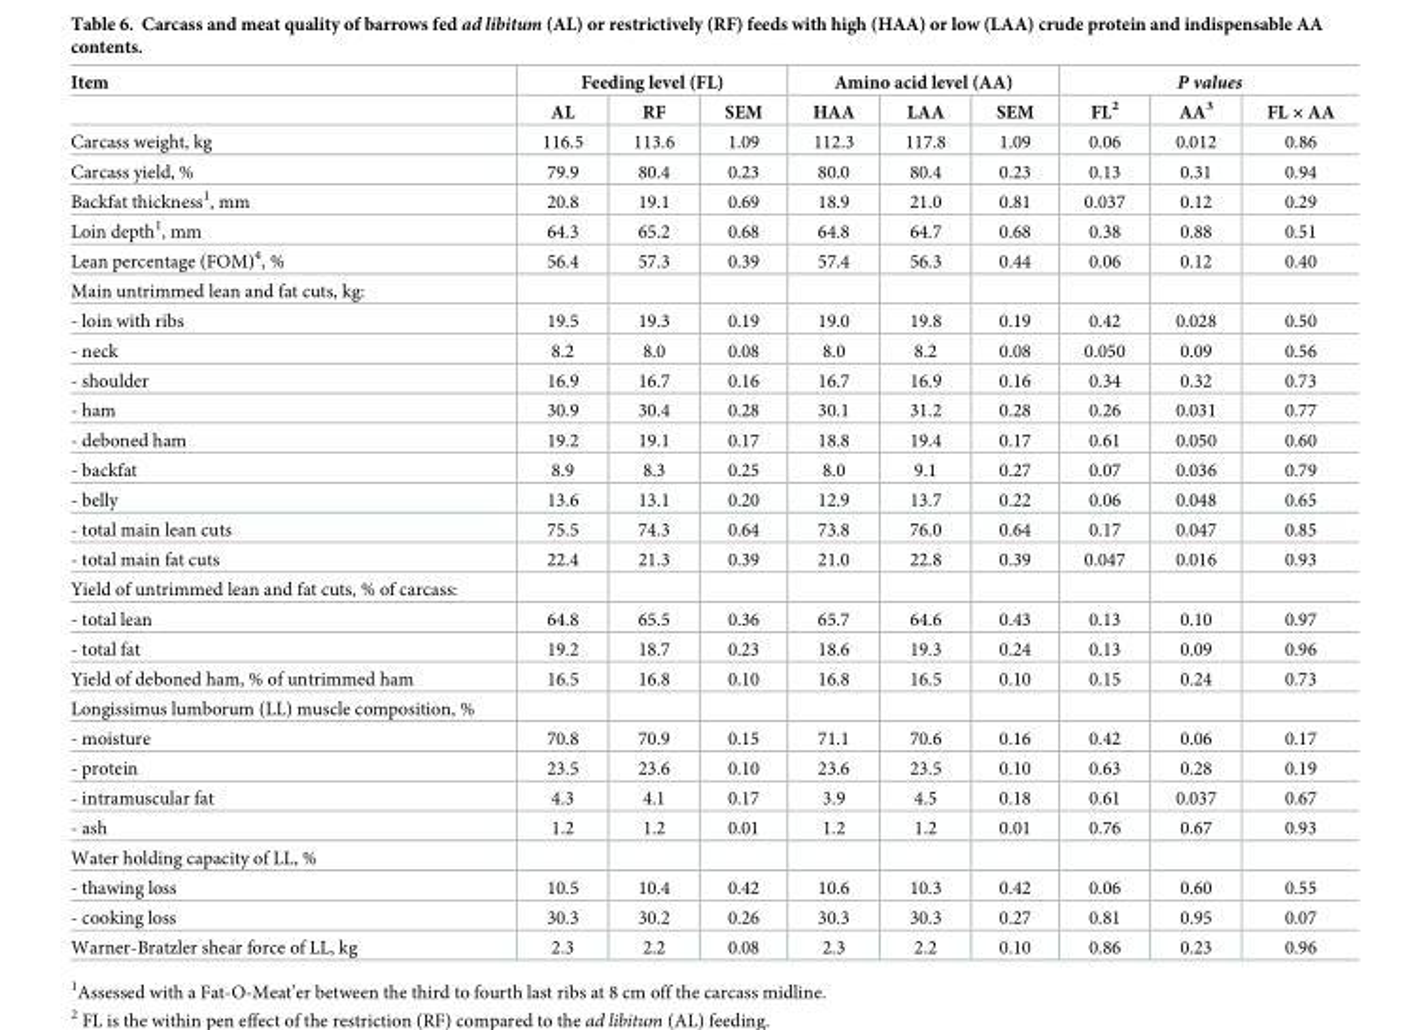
<table><thead><tr><td rowspan="2">Item</td><td colspan="3">Feeding level (FL)</td><td colspan="3">Amino acid level (AA)</td><td colspan="3">P values</td></tr><tr><td>AL</td><td>RF</td><td>SEM</td><td>HAA</td><td>LAA</td><td>SEM</td><td>FL<sup>2</sup></td><td>AA<sup>3</sup></td><td>FL × AA</td></tr></thead><tbody><tr><td>Carcass weight, kg</td><td>116.5</td><td>113.6</td><td>1.09</td><td>112.3</td><td>117.8</td><td>1.09</td><td>0.06</td><td>0.012</td><td>0.86</td></tr><tr><td>Carcass yield, %</td><td>79.9</td><td>80.4</td><td>0.23</td><td>80.0</td><td>80.4</td><td>0.23</td><td>0.13</td><td>0.31</td><td>0.94</td></tr><tr><td>Backfat thickness<sup>1</sup>, mm</td><td>20.8</td><td>19.1</td><td>0.69</td><td>18.9</td><td>21.0</td><td>0.81</td><td>0.037</td><td>0.12</td><td>0.29</td></tr><tr><td>Loin depth<sup>1</sup>, mm</td><td>64.3</td><td>65.2</td><td>0.68</td><td>64.8</td><td>64.7</td><td>0.68</td><td>0.38</td><td>0.88</td><td>0.51</td></tr><tr><td>Lean percentage (FOM)<sup>4</sup>, %</td><td>56.4</td><td>57.3</td><td>0.39</td><td>57.4</td><td>56.3</td><td>0.44</td><td>0.06</td><td>0.12</td><td>0.40</td></tr><tr><td colspan="10">Main untrimmed lean and fat cuts, kg:</td></tr><tr><td>- loin with ribs</td><td>19.5</td><td>19.3</td><td>0.19</td><td>19.0</td><td>19.8</td><td>0.19</td><td>0.42</td><td>0.028</td><td>0.50</td></tr><tr><td>- neck</td><td>8.2</td><td>8.0</td><td>0.08</td><td>8.0</td><td>8.2</td><td>0.08</td><td>0.050</td><td>0.09</td><td>0.56</td></tr><tr><td>- shoulder</td><td>16.9</td><td>16.7</td><td>0.16</td><td>16.7</td><td>16.9</td><td>0.16</td><td>0.34</td><td>0.32</td><td>0.73</td></tr><tr><td>- ham</td><td>30.9</td><td>30.4</td><td>0.28</td><td>30.1</td><td>31.2</td><td>0.28</td><td>0.26</td><td>0.031</td><td>0.77</td></tr><tr><td>- deboned ham</td><td>19.2</td><td>19.1</td><td>0.17</td><td>18.8</td><td>19.4</td><td>0.17</td><td>0.61</td><td>0.050</td><td>0.60</td></tr><tr><td>- backfat</td><td>8.9</td><td>8.3</td><td>0.25</td><td>8.0</td><td>9.1</td><td>0.27</td><td>0.07</td><td>0.036</td><td>0.79</td></tr><tr><td>- belly</td><td>13.6</td><td>13.1</td><td>0.20</td><td>12.9</td><td>13.7</td><td>0.22</td><td>0.06</td><td>0.048</td><td>0.65</td></tr><tr><td>- total main lean cuts</td><td>75.5</td><td>74.3</td><td>0.64</td><td>73.8</td><td>76.0</td><td>0.64</td><td>0.17</td><td>0.047</td><td>0.85</td></tr><tr><td>- total main fat cuts</td><td>22.4</td><td>21.3</td><td>0.39</td><td>21.0</td><td>22.8</td><td>0.39</td><td>0.047</td><td>0.016</td><td>0.93</td></tr><tr><td colspan="10">Yield of untrimmed lean and fat cuts, % of carcass:</td></tr><tr><td>- total lean</td><td>64.8</td><td>65.5</td><td>0.36</td><td>65.7</td><td>64.6</td><td>0.43</td><td>0.13</td><td>0.10</td><td>0.97</td></tr><tr><td>- total fat</td><td>19.2</td><td>18.7</td><td>0.23</td><td>18.6</td><td>19.3</td><td>0.24</td><td>0.13</td><td>0.09</td><td>0.96</td></tr><tr><td>Yield of deboned ham, % of untrimmed ham</td><td>16.5</td><td>16.8</td><td>0.10</td><td>16.8</td><td>16.5</td><td>0.10</td><td>0.15</td><td>0.24</td><td>0.73</td></tr><tr><td colspan="10">Longissimus lumborum (LL) muscle composition, %</td></tr><tr><td>- moisture</td><td>70.8</td><td>70.9</td><td>0.15</td><td>71.1</td><td>70.6</td><td>0.16</td><td>0.42</td><td>0.06</td><td>0.17</td></tr><tr><td>- protein</td><td>23.5</td><td>23.6</td><td>0.10</td><td>23.6</td><td>23.5</td><td>0.10</td><td>0.63</td><td>0.28</td><td>0.19</td></tr><tr><td>- intramuscular fat</td><td>4.3</td><td>4.1</td><td>0.17</td><td>3.9</td><td>4.5</td><td>0.18</td><td>0.61</td><td>0.037</td><td>0.67</td></tr><tr><td>- ash</td><td>1.2</td><td>1.2</td><td>0.01</td><td>1.2</td><td>1.2</td><td>0.01</td><td>0.76</td><td>0.67</td><td>0.93</td></tr><tr><td colspan="10">Water holding capacity of LL, %</td></tr><tr><td>- thawing loss</td><td>10.5</td><td>10.4</td><td>0.42</td><td>10.6</td><td>10.3</td><td>0.42</td><td>0.06</td><td>0.60</td><td>0.55</td></tr><tr><td>- cooking loss</td><td>30.3</td><td>30.2</td><td>0.26</td><td>30.3</td><td>30.3</td><td>0.27</td><td>0.81</td><td>0.95</td><td>0.07</td></tr><tr><td>Warner-Bratzler shear force of LL, kg</td><td>2.3</td><td>2.2</td><td>0.08</td><td>2.3</td><td>2.2</td><td>0.10</td><td>0.86</td><td>0.23</td><td>0.96</td></tr></tbody></table>